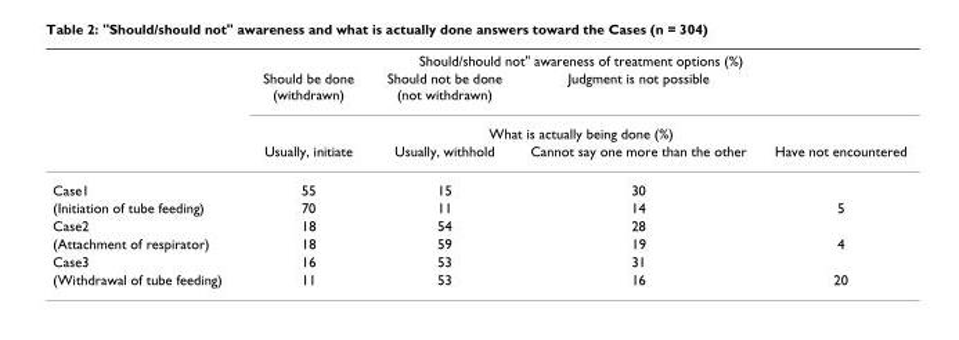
<table><thead><tr><td rowspan="4"></td><td colspan="4">Should/should not&quot; awareness of treatment options (%)</td></tr><tr><td>Should be done (withdrawn)</td><td>Should not be done (not withdrawn)</td><td>Judgment is not possible</td><td></td></tr><tr><td colspan="4">What is actually being done (%)</td></tr><tr><td>Usually, initiate</td><td>Usually, withhold</td><td>Cannot say one more than the other</td><td>Have not encountered</td></tr></thead><tbody><tr><td>Case1</td><td>55</td><td>15</td><td>30</td><td></td></tr><tr><td>(Initiation of tube feeding)</td><td>70</td><td>11</td><td>14</td><td>5</td></tr><tr><td>Case2</td><td>18</td><td>54</td><td>28</td><td></td></tr><tr><td>(Attachment of respirator)</td><td>18</td><td>59</td><td>19</td><td>4</td></tr><tr><td>Case3</td><td>16</td><td>53</td><td>31</td><td></td></tr><tr><td>(Withdrawal of tube feeding)</td><td>11</td><td>53</td><td>16</td><td>20</td></tr></tbody></table>